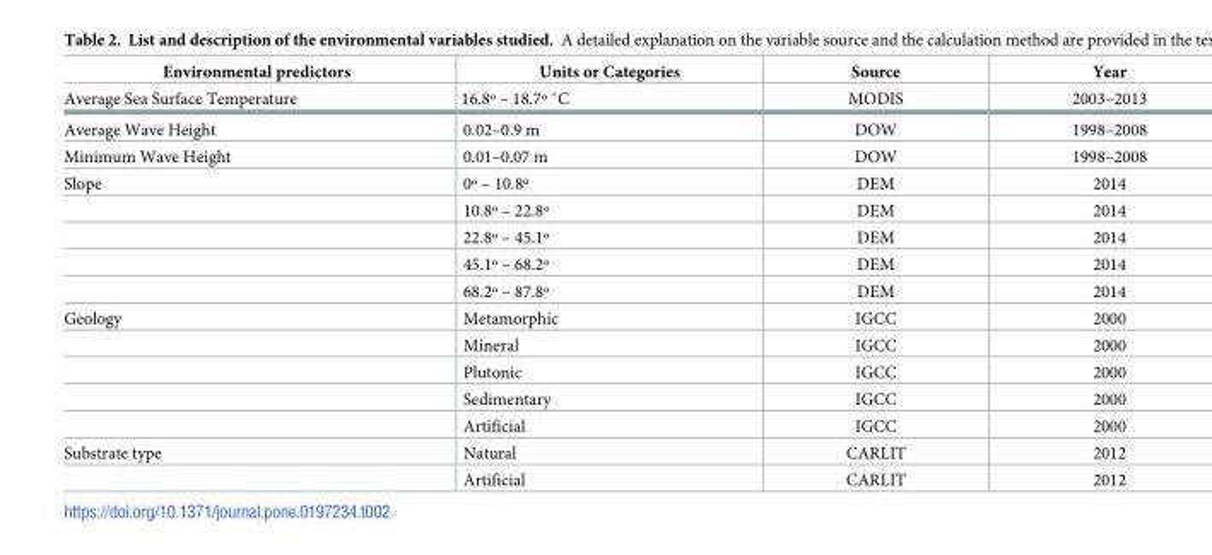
<table><thead><tr><td>Environmental predictors</td><td>Units or Categories</td><td>Source</td><td>Year</td></tr></thead><tbody><tr><td>Average Sea Surface Temperature</td><td>16.8º – 18.7º ˚C</td><td>MODIS</td><td>2003–2013</td></tr><tr><td>Average Wave Height</td><td>0.02–0.9 m</td><td>DOW</td><td>1998–2008</td></tr><tr><td>Minimum Wave Height</td><td>0.01–0.07 m</td><td>DOW</td><td>1998–2008</td></tr><tr><td rowspan="5">Slope</td><td>0º – 10.8º</td><td>DEM</td><td>2014</td></tr><tr><td>10.8º – 22.8º</td><td>DEM</td><td>2014</td></tr><tr><td>22.8º – 45.1º</td><td>DEM</td><td>2014</td></tr><tr><td>45.1º – 68.2º</td><td>DEM</td><td>2014</td></tr><tr><td>68.2º – 87.8º</td><td>DEM</td><td>2014</td></tr><tr><td rowspan="5">Geology</td><td>Metamorphic</td><td>IGCC</td><td>2000</td></tr><tr><td>Mineral</td><td>IGCC</td><td>2000</td></tr><tr><td>Plutonic</td><td>IGCC</td><td>2000</td></tr><tr><td>Sedimentary</td><td>IGCC</td><td>2000</td></tr><tr><td>Artificial</td><td>IGCC</td><td>2000</td></tr><tr><td rowspan="2">Substrate type</td><td>Natural</td><td>CARLIT</td><td>2012</td></tr><tr><td>Artificial</td><td>CARLIT</td><td>2012</td></tr></tbody></table>